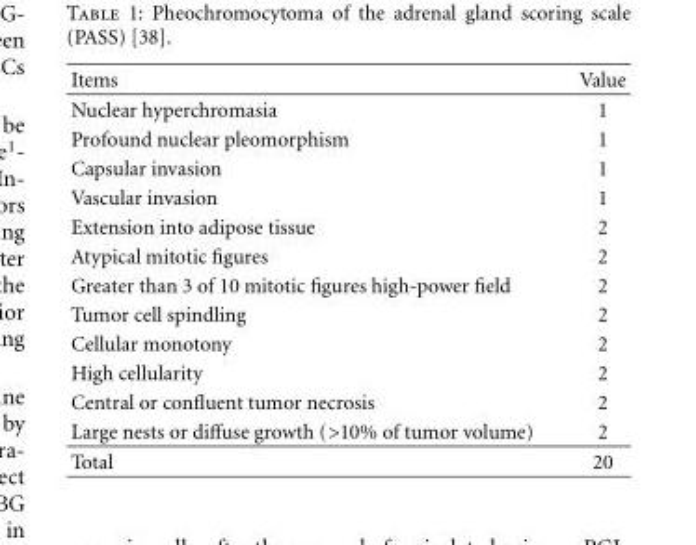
<table><thead><tr><td>Items</td><td>Value</td></tr></thead><tbody><tr><td>Nuclear hyperchromasia</td><td>1</td></tr><tr><td>Profound nuclear pleomorphism</td><td>1</td></tr><tr><td>Capsular invasion</td><td>1</td></tr><tr><td>Vascular invasion</td><td>1</td></tr><tr><td>Extension into adipose tissue</td><td>2</td></tr><tr><td>Atypical mitotic figures</td><td>2</td></tr><tr><td>Greater than 3 of 10 mitotic figures high-power field</td><td>2</td></tr><tr><td>Tumor cell spindling</td><td>2</td></tr><tr><td>Cellular monotony</td><td>2</td></tr><tr><td>High cellularity</td><td>2</td></tr><tr><td>Central or confluent tumor necrosis</td><td>2</td></tr><tr><td>Large nests or diffuse growth (&gt;10% of tumor volume)</td><td>2</td></tr><tr><td>Total</td><td>20</td></tr></tbody></table>